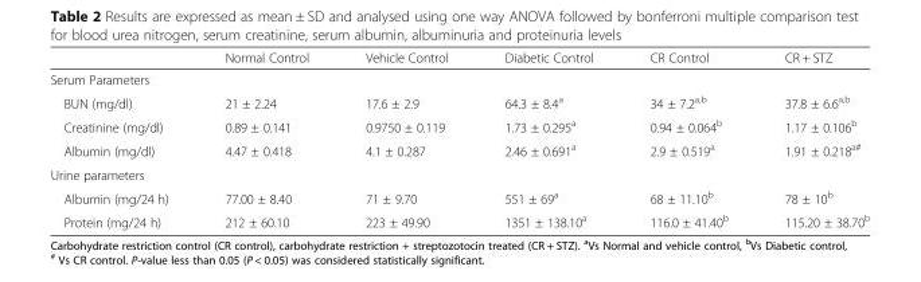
<table><thead><tr><td></td><td>Normal Control</td><td>Vehicle Control</td><td>Diabetic Control</td><td>CR Control</td><td>CR + STZ</td></tr></thead><tbody><tr><td colspan="6">Serum Parameters</td></tr><tr><td>BUN (mg/dl)</td><td>21 ± 2.24</td><td>17.6 ± 2.9</td><td>64.3 ± 8.4<sup>a</sup></td><td>34 ± 7.2<sup>a,b</sup></td><td>37.8 ± 6.6<sup>a,b</sup></td></tr><tr><td>Creatinine (mg/dl)</td><td>0.89 ± 0.141</td><td>0.9750 ± 0.119</td><td>1.73 ± 0.295<sup>a</sup></td><td>0.94 ± 0.064<sup>b</sup></td><td>1.17 ± 0.106<sup>b</sup></td></tr><tr><td>Albumin (mg/dl)</td><td>4.47 ± 0.418</td><td>4.1 ± 0.287</td><td>2.46 ± 0.691<sup>a</sup></td><td>2.9 ± 0.519<sup>a</sup></td><td>1.91 ± 0.218<sup>a#</sup></td></tr><tr><td colspan="6">Urine parameters</td></tr><tr><td>Albumin (mg/24 h)</td><td>77.00 ± 8.40</td><td>71 ± 9.70</td><td>551 ± 69<sup>a</sup></td><td>68 ± 11.10<sup>b</sup></td><td>78 ± 10<sup>b</sup></td></tr><tr><td>Protein (mg/24 h)</td><td>212 ± 60.10</td><td>223 ± 49.90</td><td>1351 ± 138.10<sup>a</sup></td><td>116.0 ± 41.40<sup>b</sup></td><td>115.20 ± 38.70<sup>b</sup></td></tr></tbody></table>